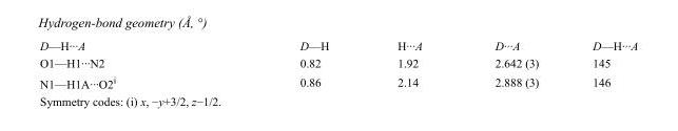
<table><tbody><tr><td>D—H···A</td><td>D—H</td><td>H···A</td><td>D···A</td><td>D—H···A</td></tr><tr><td>O1—H1···N2</td><td>0.82</td><td>1.92</td><td>2.642 (3)</td><td>145</td></tr><tr><td>N1—H1A···O2<sup>i</sup></td><td>0.86</td><td>2.14</td><td>2.888 (3)</td><td>146</td></tr></tbody></table>